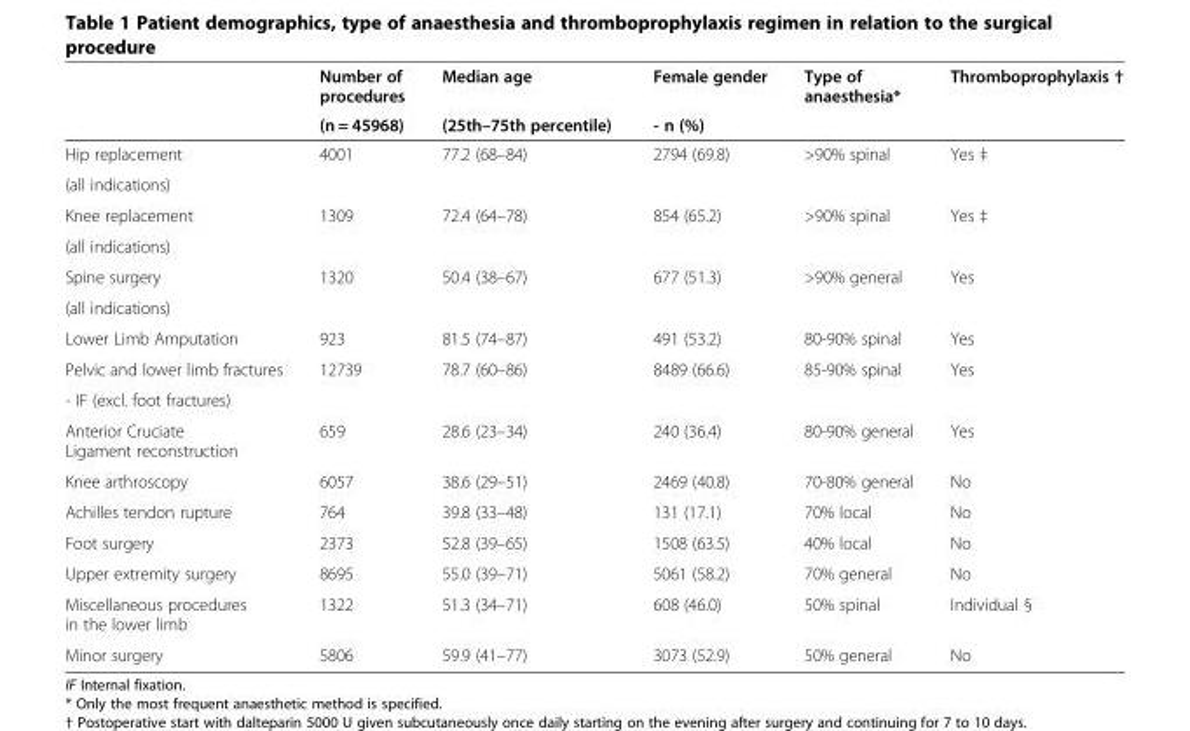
<table><thead><tr><td rowspan="2"></td><td rowspan="2">Number of procedures (n = 45968)</td><td rowspan="2">Median age (25th–75th percentile)</td><td rowspan="2">Female gender - n (%)</td><td rowspan="2">Type of anaesthesia*</td><td rowspan="2">Thromboprophylaxis †</td></tr><tr></tr></thead><tbody><tr><td>Hip replacement</td><td rowspan="2">4001</td><td rowspan="2">77.2 (68–84)</td><td rowspan="2">2794 (69.8)</td><td rowspan="2">&gt;90% spinal</td><td rowspan="2">Yes ‡</td></tr><tr><td>(all indications)</td></tr><tr><td>Knee replacement</td><td rowspan="2">1309</td><td rowspan="2">72.4 (64–78)</td><td rowspan="2">854 (65.2)</td><td rowspan="2">&gt;90% spinal</td><td rowspan="2">Yes ‡</td></tr><tr><td>(all indications)</td></tr><tr><td>Spine surgery</td><td rowspan="2">1320</td><td rowspan="2">50.4 (38–67)</td><td rowspan="2">677 (51.3)</td><td rowspan="2">&gt;90% general</td><td rowspan="2">Yes</td></tr><tr><td>(all indications)</td></tr><tr><td>Lower Limb Amputation</td><td>923</td><td>81.5 (74–87)</td><td>491 (53.2)</td><td>80-90% spinal</td><td>Yes</td></tr><tr><td>Pelvic and lower limb fractures</td><td rowspan="2">12739</td><td rowspan="2">78.7 (60–86)</td><td rowspan="2">8489 (66.6)</td><td rowspan="2">85-90% spinal</td><td rowspan="2">Yes</td></tr><tr><td>- IF (excl. foot fractures)</td></tr><tr><td>Anterior Cruciate Ligament reconstruction</td><td>659</td><td>28.6 (23–34)</td><td>240 (36.4)</td><td>80-90% general</td><td>Yes</td></tr><tr><td>Knee arthroscopy</td><td>6057</td><td>38.6 (29–51)</td><td>2469 (40.8)</td><td>70-80% general</td><td>No</td></tr><tr><td>Achilles tendon rupture</td><td>764</td><td>39.8 (33–48)</td><td>131 (17.1)</td><td>70% local</td><td>No</td></tr><tr><td>Foot surgery</td><td>2373</td><td>52.8 (39–65)</td><td>1508 (63.5)</td><td>40% local</td><td>No</td></tr><tr><td>Upper extremity surgery</td><td>8695</td><td>55.0 (39–71)</td><td>5061 (58.2)</td><td>70% general</td><td>No</td></tr><tr><td>Miscellaneous procedures in the lower limb</td><td>1322</td><td>51.3 (34–71)</td><td>608 (46.0)</td><td>50% spinal</td><td>Individual §</td></tr><tr><td>Minor surgery</td><td>5806</td><td>59.9 (41–77)</td><td>3073 (52.9)</td><td>50% general</td><td>No</td></tr></tbody></table>